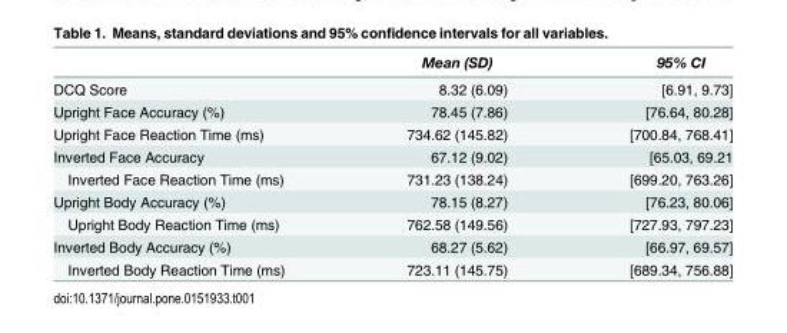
<table><thead><tr><td></td><td>Mean (SD)</td><td>95% CI</td></tr></thead><tbody><tr><td>DCQ Score</td><td>8.32 (6.09)</td><td>[6.91, 9.73]</td></tr><tr><td>Upright Face Accuracy (%)</td><td>78.45 (7.86)</td><td>[76.64, 80.28]</td></tr><tr><td>Upright Face Reaction Time (ms)</td><td>734.62 (145.82)</td><td>[700.84, 768.41]</td></tr><tr><td>Inverted Face Accuracy</td><td>67.12 (9.02)</td><td>[65.03, 69.21</td></tr><tr><td>Inverted Face Reaction Time (ms)</td><td>731.23 (138.24)</td><td>[699.20, 763.26]</td></tr><tr><td>Upright Body Accuracy (%)</td><td>78.15 (8.27)</td><td>[76.23, 80.06]</td></tr><tr><td>Upright Body Reaction Time (ms)</td><td>762.58 (149.56)</td><td>[727.93, 797.23]</td></tr><tr><td>Inverted Body Accuracy (%)</td><td>68.27 (5.62)</td><td>[66.97, 69.57]</td></tr><tr><td>Inverted Body Reaction Time (ms)</td><td>723.11 (145.75)</td><td>[689.34, 756.88]</td></tr></tbody></table>